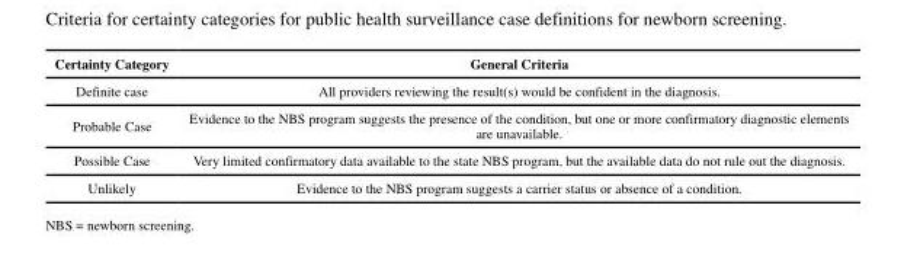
<table><thead><tr><td>Certainty Category</td><td>General Criteria</td></tr></thead><tbody><tr><td>Definite case</td><td>All providers reviewing the result(s) would be confident in the diagnosis.</td></tr><tr><td>Probable Case</td><td>Evidence to the NBS program suggests the presence of the condition, but one or more confirmatory diagnostic elements are unavailable.</td></tr><tr><td>Possible Case</td><td>Very limited confirmatory data available to the state NBS program, but the available data do not rule out the diagnosis.</td></tr><tr><td>Unlikely</td><td>Evidence to the NBS program suggests a carrier status or absence of a condition.</td></tr></tbody></table>